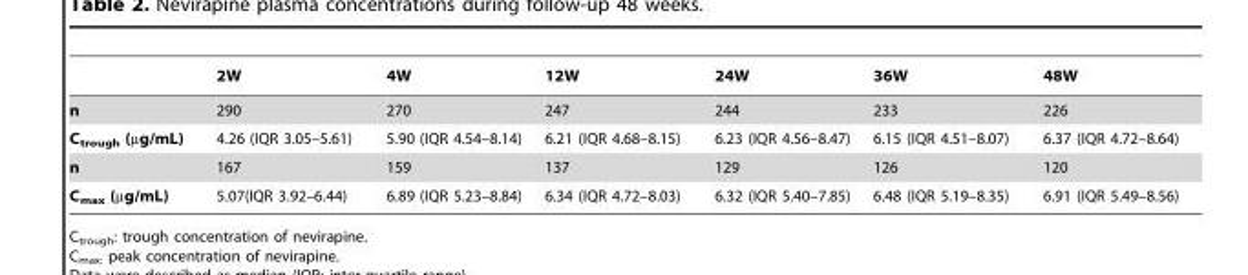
<table><thead><tr><td></td><td>2W</td><td>4W</td><td>12W</td><td>24W</td><td>36W</td><td>48W</td></tr></thead><tbody><tr><td>n</td><td>290</td><td>270</td><td>247</td><td>244</td><td>233</td><td>226</td></tr><tr><td>C<sub>trough</sub> (µg/mL)</td><td>4.26 (IQR 3.05–5.61)</td><td>5.90 (IQR 4.54–8.14)</td><td>6.21 (IQR 4.68–8.15)</td><td>6.23 (IQR 4.56–8.47)</td><td>6.15 (IQR 4.51–8.07)</td><td>6.37 (IQR 4.72–8.64)</td></tr><tr><td>n</td><td>167</td><td>159</td><td>137</td><td>129</td><td>126</td><td>120</td></tr><tr><td>C<sub>max</sub> (µg/mL)</td><td>5.07(IQR 3.92–6.44)</td><td>6.89 (IQR 5.23–8.84)</td><td>6.34 (IQR 4.72–8.03)</td><td>6.32 (IQR 5.40–7.85)</td><td>6.48 (IQR 5.19–8.35)</td><td>6.91 (IQR 5.49–8.56)</td></tr></tbody></table>